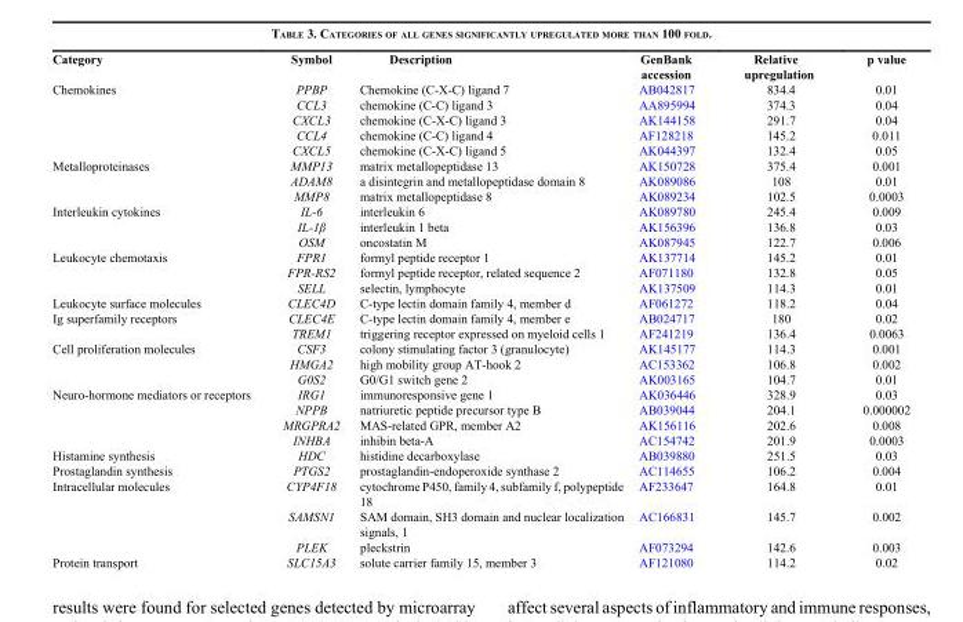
<table><thead><tr><td>Category</td><td>Symbol</td><td>Description</td><td>GenBank accession</td><td>Relative upregulation</td><td>p value</td></tr></thead><tbody><tr><td rowspan="5">Chemokines</td><td>PPBP</td><td>Chemokine (C-X-C) ligand 7</td><td>AB042817</td><td>834.4</td><td>0.01</td></tr><tr><td>CCL3</td><td>chemokine (C-C) ligand 3</td><td>AA895994</td><td>374.3</td><td>0.04</td></tr><tr><td>CXCL3</td><td>chemokine (C-X-C) ligand 3</td><td>AK144158</td><td>291.7</td><td>0.04</td></tr><tr><td>CCL4</td><td>chemokine (C-C) ligand 4</td><td>AF128218</td><td>145.2</td><td>0.011</td></tr><tr><td>CXCL5</td><td>chemokine (C-X-C) ligand 5</td><td>AK044397</td><td>132.4</td><td>0.05</td></tr><tr><td rowspan="3">Metalloproteinases</td><td>MMP13</td><td>matrix metallopeptidase 13</td><td>AK150728</td><td>375.4</td><td>0.001</td></tr><tr><td>ADAM8</td><td>a disintegrin and metallopeptidase domain 8</td><td>AK089086</td><td>108</td><td>0.01</td></tr><tr><td>MMP8</td><td>matrix metallopeptidase 8</td><td>AK089234</td><td>102.5</td><td>0.0003</td></tr><tr><td rowspan="3">Interleukin cytokines</td><td>IL-6</td><td>interleukin 6</td><td>AK089780</td><td>245.4</td><td>0.009</td></tr><tr><td>IL-1β</td><td>interleukin 1 beta</td><td>AK156396</td><td>136.8</td><td>0.03</td></tr><tr><td>OSM</td><td>oncostatin M</td><td>AK087945</td><td>122.7</td><td>0.006</td></tr><tr><td rowspan="3">Leukocyte chemotaxis</td><td>FPR1</td><td>formyl peptide receptor 1</td><td>AK137714</td><td>145.2</td><td>0.01</td></tr><tr><td>FPR-RS2</td><td>formyl peptide receptor, related sequence 2</td><td>AF071180</td><td>132.8</td><td>0.05</td></tr><tr><td>SELL</td><td>selectin, lymphocyte</td><td>AK137509</td><td>114.3</td><td>0.01</td></tr><tr><td>Leukocyte surface molecules</td><td>CLEC4D</td><td>C-type lectin domain family 4, member d</td><td>AF061272</td><td>118.2</td><td>0.04</td></tr><tr><td rowspan="2">Ig superfamily receptors</td><td>CLEC4E</td><td>C-type lectin domain family 4, member e</td><td>AB024717</td><td>180</td><td>0.02</td></tr><tr><td>TREM1</td><td>triggering receptor expressed on myeloid cells 1</td><td>AF241219</td><td>136.4</td><td>0.0063</td></tr><tr><td rowspan="3">Cell proliferation molecules</td><td>CSF3</td><td>colony stimulating factor 3 (granulocyte)</td><td>AK145177</td><td>114.3</td><td>0.001</td></tr><tr><td>HMGA2</td><td>high mobility group AT-hook 2</td><td>AC153362</td><td>106.8</td><td>0.002</td></tr><tr><td>G0S2</td><td>G0/G1 switch gene 2</td><td>AK003165</td><td>104.7</td><td>0.01</td></tr><tr><td rowspan="4">Neuro-hormone mediators or receptors</td><td>IRG1</td><td>immunoresponsive gene 1</td><td>AK036446</td><td>328.9</td><td>0.03</td></tr><tr><td>NPPB</td><td>natriuretic peptide precursor type B</td><td>AB039044</td><td>204.1</td><td>0.000002</td></tr><tr><td>MRGPRA2</td><td>MAS-related GPR, member A2</td><td>AK156116</td><td>202.6</td><td>0.008</td></tr><tr><td>INHBA</td><td>inhibin beta-A</td><td>AC154742</td><td>201.9</td><td>0.0003</td></tr><tr><td>Histamine synthesis</td><td>HDC</td><td>histidine decarboxylase</td><td>AB039880</td><td>251.5</td><td>0.03</td></tr><tr><td>Prostaglandin synthesis</td><td>PTGS2</td><td>prostaglandin-endoperoxide synthase 2</td><td>AC114655</td><td>106.2</td><td>0.004</td></tr><tr><td rowspan="3">Intracellular molecules</td><td>CYP4F18</td><td>cytochrome P450, family 4, subfamily f, polypeptide 18</td><td>AF233647</td><td>164.8</td><td>0.01</td></tr><tr><td>SAMSN1</td><td>SAM domain, SH3 domain and nuclear localization signals, 1</td><td>AC166831</td><td>145.7</td><td>0.002</td></tr><tr><td>PLEK</td><td>pleckstrin</td><td>AF073294</td><td>142.6</td><td>0.003</td></tr><tr><td>Protein transport</td><td>SLC15A3</td><td>solute carrier family 15, member 3</td><td>AF121080</td><td>114.2</td><td>0.02</td></tr></tbody></table>